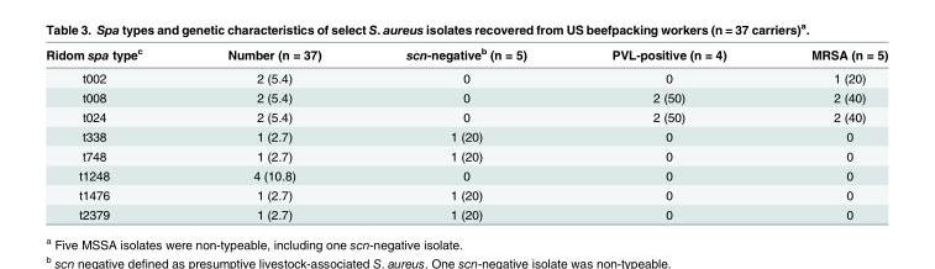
<table><thead><tr><td>Ridom spa type<sup>c</sup></td><td>Number (n = 37)</td><td>scn-negative<sup>b</sup> (n = 5)</td><td>PVL-positive (n = 4)</td><td>MRSA (n = 5)</td></tr></thead><tbody><tr><td>t002</td><td>2 (5.4)</td><td>0</td><td>0</td><td>1 (20)</td></tr><tr><td>t008</td><td>2 (5.4)</td><td>0</td><td>2 (50)</td><td>2 (40)</td></tr><tr><td>t024</td><td>2 (5.4)</td><td>0</td><td>2 (50)</td><td>2 (40)</td></tr><tr><td>t338</td><td>1 (2.7)</td><td>1 (20)</td><td>0</td><td>0</td></tr><tr><td>t748</td><td>1 (2.7)</td><td>1 (20)</td><td>0</td><td>0</td></tr><tr><td>t1248</td><td>4 (10.8)</td><td>0</td><td>0</td><td>0</td></tr><tr><td>t1476</td><td>1 (2.7)</td><td>1 (20)</td><td>0</td><td>0</td></tr><tr><td>t2379</td><td>1 (2.7)</td><td>1 (20)</td><td>0</td><td>0</td></tr></tbody></table>